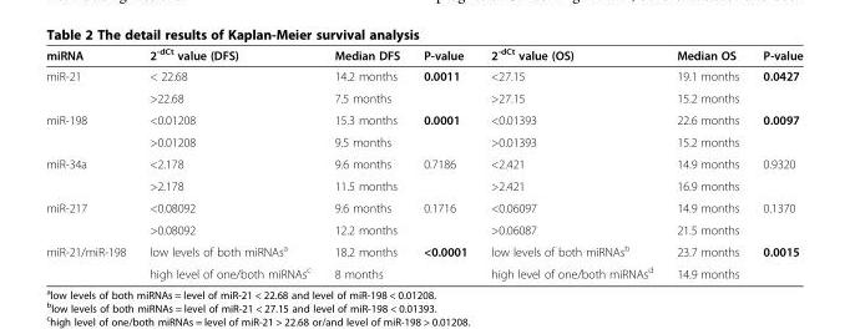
<table><thead><tr><td>miRNA</td><td>2<sup>-dCt</sup> value (DFS)</td><td>Median DFS</td><td>P-value</td><td>2<sup>-dCt</sup> value (OS)</td><td>Median OS</td><td>P-value</td></tr></thead><tbody><tr><td rowspan="2">miR-21</td><td>&lt; 22.68</td><td>14.2 months</td><td rowspan="2">0.0011</td><td>&lt;27.15</td><td>19.1 months</td><td rowspan="2">0.0427</td></tr><tr><td>&gt;22.68</td><td>7.5 months</td><td>&gt;27.15</td><td>15.2 months</td></tr><tr><td rowspan="2">miR-198</td><td>&lt;0.01208</td><td>15.3 months</td><td rowspan="2">0.0001</td><td>&lt;0.01393</td><td>22.6 months</td><td rowspan="2">0.0097</td></tr><tr><td>&gt;0.01208</td><td>9.5 months</td><td>&gt;0.01393</td><td>15.2 months</td></tr><tr><td rowspan="2">miR-34a</td><td>&lt;2.178</td><td>9.6 months</td><td rowspan="2">0.7186</td><td>&lt;2.421</td><td>14.9 months</td><td rowspan="2">0.9320</td></tr><tr><td>&gt;2.178</td><td>11.5 months</td><td>&gt;2.421</td><td>16.9 months</td></tr><tr><td rowspan="2">miR-217</td><td>&lt;0.08092</td><td>9.6 months</td><td rowspan="2">0.1716</td><td>&lt;0.06097</td><td>14.9 months</td><td rowspan="2">0.1370</td></tr><tr><td>&gt;0.08092</td><td>12.2 months</td><td>&gt;0.06087</td><td>21.5 months</td></tr><tr><td rowspan="2">miR-21/miR-198</td><td>low levels of both miRNAs<sup>a</sup></td><td>18.2 months</td><td rowspan="2">&lt;0.0001</td><td>low levels of both miRNAs<sup>b</sup></td><td>23.7 months</td><td rowspan="2">0.0015</td></tr><tr><td>high level of one/both miRNAs<sup>c</sup></td><td>8 months</td><td>high level of one/both miRNAs<sup>d</sup></td><td>14.9 months</td></tr></tbody></table>